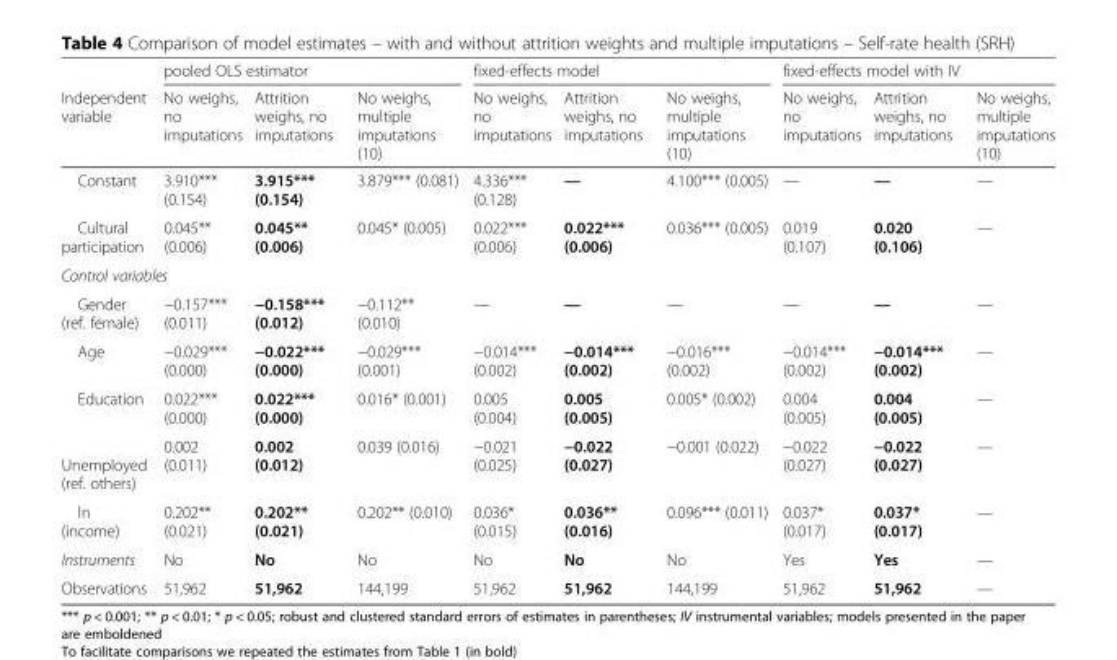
<table><thead><tr><td rowspan="2">Independent variable</td><td colspan="3">pooled OLS estimator</td><td colspan="3">fixed-effects model</td><td colspan="3">fixed-effects model with IV</td></tr><tr><td>No weighs, no imputations</td><td>Attrition weighs, no imputations</td><td>No weighs, multiple imputations (10)</td><td>No weighs, no imputations</td><td>Attrition weighs, no imputations</td><td>No weighs, multiple imputations (10)</td><td>No weighs, no imputations</td><td>Attrition weighs, no imputations</td><td>No weighs, multiple imputations (10)</td></tr></thead><tbody><tr><td>Constant</td><td>3.910*** (0.154)</td><td>3.915*** (0.154)</td><td>3.879*** (0.081)</td><td>4.336*** (0.128)</td><td>—</td><td>4.100*** (0.005)</td><td>—</td><td>—</td><td>—</td></tr><tr><td>Cultural participation</td><td>0.045** (0.006)</td><td>0.045** (0.006)</td><td>0.045* (0.005)</td><td>0.022*** (0.006)</td><td>0.022*** (0.006)</td><td>0.036*** (0.005)</td><td>0.019 (0.107)</td><td>0.020 (0.106)</td><td>—</td></tr><tr><td colspan="10">Control variables</td></tr><tr><td>Gender (ref. female)</td><td>−0.157*** (0.011)</td><td>−0.158*** (0.012)</td><td>−0.112** (0.010)</td><td>—</td><td>—</td><td>—</td><td>—</td><td>—</td><td>—</td></tr><tr><td>Age</td><td>−0.029*** (0.000)</td><td>−0.022*** (0.000)</td><td>−0.029*** (0.001)</td><td>−0.014*** (0.002)</td><td>−0.014*** (0.002)</td><td>−0.016*** (0.002)</td><td>−0.014*** (0.002)</td><td>−0.014*** (0.002)</td><td>—</td></tr><tr><td>Education</td><td>0.022*** (0.000)</td><td>0.022*** (0.000)</td><td>0.016* (0.001)</td><td>0.005 (0.004)</td><td>0.005 (0.005)</td><td>0.005* (0.002)</td><td>0.004 (0.005)</td><td>0.004 (0.005)</td><td>—</td></tr><tr><td>Unemployed (ref. others)</td><td>0.002 (0.011)</td><td>0.002 (0.012)</td><td>0.039 (0.016)</td><td>−0.021 (0.025)</td><td>−0.022 (0.027)</td><td>−0.001 (0.022)</td><td>−0.022 (0.027)</td><td>−0.022 (0.027)</td><td>—</td></tr><tr><td>ln (income)</td><td>0.202** (0.021)</td><td>0.202** (0.021)</td><td>0.202** (0.010)</td><td>0.036* (0.015)</td><td>0.036** (0.016)</td><td>0.096*** (0.011)</td><td>0.037* (0.017)</td><td>0.037* (0.017)</td><td>—</td></tr><tr><td>Instruments</td><td>No</td><td>No</td><td>No</td><td>No</td><td>No</td><td>No</td><td>Yes</td><td>Yes</td><td>—</td></tr><tr><td>Observations</td><td>51,962</td><td>51,962</td><td>144,199</td><td>51,962</td><td>51,962</td><td>144,199</td><td>51,962</td><td>51,962</td><td>—</td></tr></tbody></table>